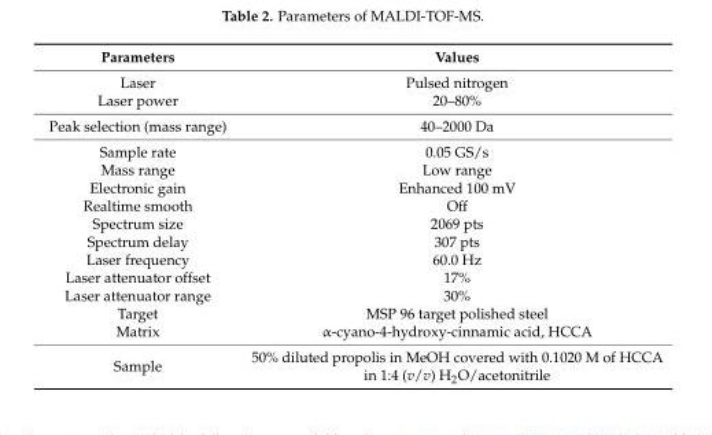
<table><thead><tr><td>Parameters</td><td>Values</td></tr></thead><tbody><tr><td>Laser</td><td>Pulsed nitrogen</td></tr><tr><td>Laser power</td><td>20–80%</td></tr><tr><td>Peak selection (mass range)</td><td>40–2000 Da</td></tr><tr><td>Sample rate</td><td>0.05 GS/s</td></tr><tr><td>Mass range</td><td>Low range</td></tr><tr><td>Electronic gain</td><td>Enhanced 100 mV</td></tr><tr><td>Realtime smooth</td><td>Off</td></tr><tr><td>Spectrum size</td><td>2069 pts</td></tr><tr><td>Spectrum delay</td><td>307 pts</td></tr><tr><td>Laser frequency</td><td>60.0 Hz</td></tr><tr><td>Laser attenuator offset</td><td>17%</td></tr><tr><td>Laser attenuator range</td><td>30%</td></tr><tr><td>Target</td><td>MSP 96 target polished steel</td></tr><tr><td>Matrix</td><td>α-cyano-4-hydroxy-cinnamic acid, HCCA</td></tr><tr><td>Sample</td><td>50% diluted propolis in MeOH covered with 0.1020 M of HCCA in 1:4 (v/v) H<sub>2</sub>O/acetonitrile</td></tr></tbody></table>